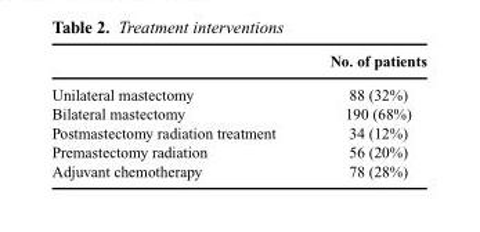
<table><thead><tr><td></td><td>No. of patients</td></tr></thead><tbody><tr><td>Unilateral mastectomy</td><td>88 (32%)</td></tr><tr><td>Bilateral mastectomy</td><td>190 (68%)</td></tr><tr><td>Postmastectomy radiation treatment</td><td>34 (12%)</td></tr><tr><td>Premastectomy radiation</td><td>56 (20%)</td></tr><tr><td>Adjuvant chemotherapy</td><td>78 (28%)</td></tr></tbody></table>